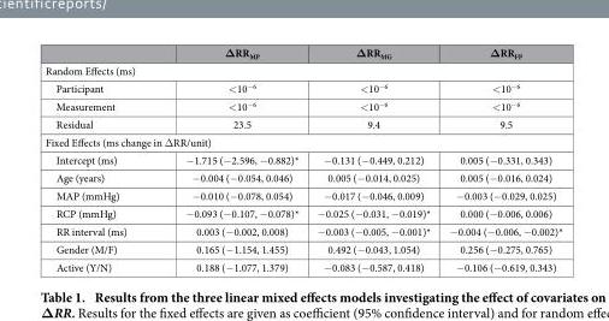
<table><thead><tr><td></td><td>ΔRR<sub>MP</sub></td><td>ΔRR<sub>MG</sub></td><td>ΔRR<sub>FP</sub></td></tr></thead><tbody><tr><td colspan="4">Random Effects (ms)</td></tr><tr><td>Participant</td><td>&lt; 10<sup>−6</sup></td><td>&lt; 10<sup>−6</sup></td><td>&lt; 10<sup>−6</sup></td></tr><tr><td>Measurement</td><td>&lt; 10<sup>−6</sup></td><td>&lt; 10<sup>−6</sup></td><td>&lt; 10<sup>−6</sup></td></tr><tr><td>Residual</td><td>23.5</td><td>9.4</td><td>9.5</td></tr><tr><td colspan="4">Fixed Effects (ms change in Δ RR/unit)</td></tr><tr><td>Intercept (ms)</td><td>− 1.715 (− 2.596, − 0.882)*</td><td>− 0.131 (− 0.449, 0.212)</td><td>0.005 (− 0.331, 0.343)</td></tr><tr><td>Age (years)</td><td>− 0.004 (− 0.054, 0.046)</td><td>0.005 (− 0.014, 0.025)</td><td>0.005 (− 0.016, 0.024)</td></tr><tr><td>MAP (mmHg)</td><td>− 0.010 (− 0.078, 0.054)</td><td>− 0.017 (− 0.046, 0.009)</td><td>− 0.003 (− 0.029, 0.025)</td></tr><tr><td>RCP (mmHg)</td><td>− 0.093 (− 0.107, − 0.078)*</td><td>− 0.025 (− 0.031, − 0.019)*</td><td>0.000 (− 0.006, 0.006)</td></tr><tr><td>RR interval (ms)</td><td>0.003 (− 0.002, 0.008)</td><td>− 0.003 (− 0.005, − 0.001)*</td><td>− 0.004 (− 0.006, − 0.002)*</td></tr><tr><td>Gender (M/F)</td><td>0.165 (− 1.154, 1.455)</td><td>0.492 (− 0.043, 1.054)</td><td>0.256 (− 0.275, 0.765)</td></tr><tr><td>Active (Y/N)</td><td>0.188 (− 1.077, 1.379)</td><td>− 0.083 (− 0.587, 0.418)</td><td>− 0.106 (− 0.619, 0.343)</td></tr></tbody></table>